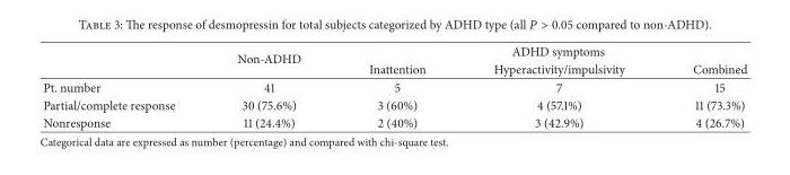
<table><thead><tr><td rowspan="2"></td><td rowspan="2">Non-ADHD</td><td colspan="3">ADHD symptoms</td></tr><tr><td>Inattention</td><td>Hyperactivity/impulsivity</td><td>Combined</td></tr></thead><tbody><tr><td>Pt. number</td><td>41</td><td>5</td><td>7</td><td>15</td></tr><tr><td>Partial/complete response</td><td>30 (75.6%)</td><td>3 (60%)</td><td>4 (57.1%)</td><td>11 (73.3%)</td></tr><tr><td>Nonresponse</td><td>11 (24.4%)</td><td>2 (40%)</td><td>3 (42.9%)</td><td>4 (26.7%)</td></tr></tbody></table>